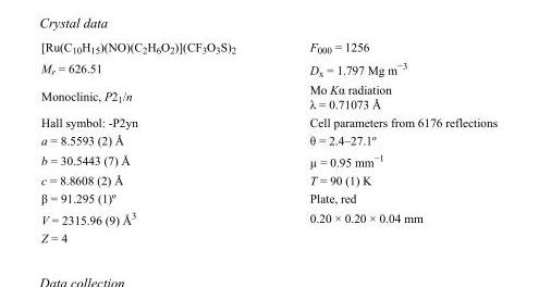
<table><tbody><tr><td>[Ru(C<sub>10</sub>H<sub>15</sub>)(NO)(C<sub>2</sub>H<sub>6</sub>O<sub>2</sub>)](CF<sub>3</sub>O<sub>3</sub>S)<sub>2</sub></td><td>F<sub>000</sub> = 1256</td></tr><tr><td>M<sub>r</sub> = 626.51</td><td>D<sub>x</sub> = 1.797 Mg m<sup>−3</sup></td></tr><tr><td>Monoclinic, P2<sub>1</sub>/n</td><td>Mo Kα radiation λ = 0.71073 Å</td></tr><tr><td>Hall symbol: -P2yn</td><td>Cell parameters from 6176 reflections</td></tr><tr><td>a = 8.5593 (2) Å</td><td>θ = 2.4–27.1º</td></tr><tr><td>b = 30.5443 (7) Å</td><td>µ = 0.95 mm<sup>−1</sup></td></tr><tr><td>c = 8.8608 (2) Å</td><td>T = 90 (1) K</td></tr><tr><td>β = 91.295 (1)º</td><td>Plate, red</td></tr><tr><td>V = 2315.96 (9) Å<sup>3</sup></td><td>0.20 × 0.20 × 0.04 mm</td></tr><tr><td>Z = 4</td><td></td></tr></tbody></table>